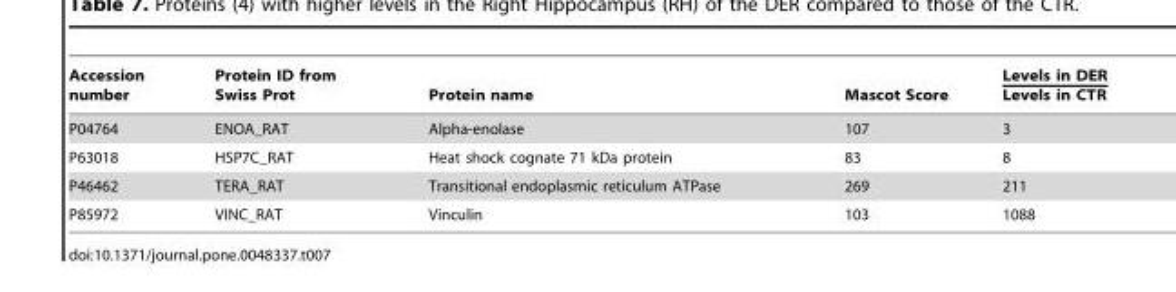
<table><thead><tr><td>Accession number</td><td>Protein ID from Swiss Prot</td><td>Protein name</td><td>Mascot Score</td><td>Levels in DER Levels in CTR</td></tr></thead><tbody><tr><td>P04764</td><td>ENOA_RAT</td><td>Alpha-enolase</td><td>107</td><td>3</td></tr><tr><td>P63018</td><td>HSP7C_RAT</td><td>Heat shock cognate 71 kDa protein</td><td>83</td><td>8</td></tr><tr><td>P46462</td><td>TERA_RAT</td><td>Transitional endoplasmic reticulum ATPase</td><td>269</td><td>211</td></tr><tr><td>P85972</td><td>VINC_RAT</td><td>Vinculin</td><td>103</td><td>1088</td></tr></tbody></table>